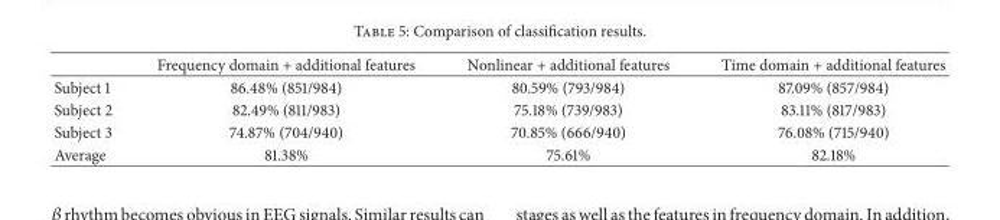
<table><thead><tr><td></td><td>Frequency domain + additional features</td><td>Nonlinear + additional features</td><td>Time domain + additional features</td></tr></thead><tbody><tr><td>Subject 1</td><td>86.48% (851/984)</td><td>80.59% (793/984)</td><td>87.09% (857/984)</td></tr><tr><td>Subject 2</td><td>82.49% (811/983)</td><td>75.18% (739/983)</td><td>83.11% (817/983)</td></tr><tr><td>Subject 3</td><td>74.87% (704/940)</td><td>70.85% (666/940)</td><td>76.08% (715/940)</td></tr><tr><td>Average</td><td>81.38%</td><td>75.61%</td><td>82.18%</td></tr></tbody></table>